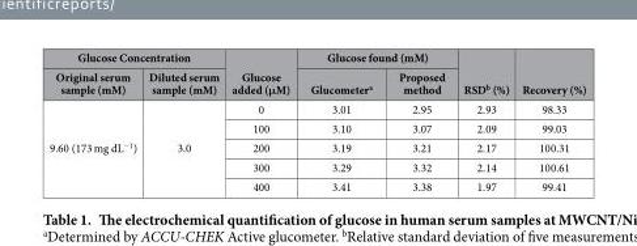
<table><thead><tr><td colspan="2">Glucose Concentration</td><td rowspan="2">Glucose added (μM)</td><td colspan="2">Glucose found (mM)</td><td rowspan="2">RSD<sup>b</sup> (%)</td><td rowspan="2">Recovery (%)</td></tr><tr><td>Original serum sample (mM)</td><td>Diluted serum sample (mM)</td><td>Glucometer<sup>a</sup></td><td>Proposed method</td></tr></thead><tbody><tr><td rowspan="5">9.60 (173 mg dL<sup>−1</sup>)</td><td rowspan="5">3.0</td><td>0</td><td>3.01</td><td>2.95</td><td>2.93</td><td>98.33</td></tr><tr><td>100</td><td>3.10</td><td>3.07</td><td>2.09</td><td>99.03</td></tr><tr><td>200</td><td>3.19</td><td>3.21</td><td>2.17</td><td>100.31</td></tr><tr><td>300</td><td>3.29</td><td>3.32</td><td>2.14</td><td>100.61</td></tr><tr><td>400</td><td>3.41</td><td>3.38</td><td>1.97</td><td>99.41</td></tr></tbody></table>